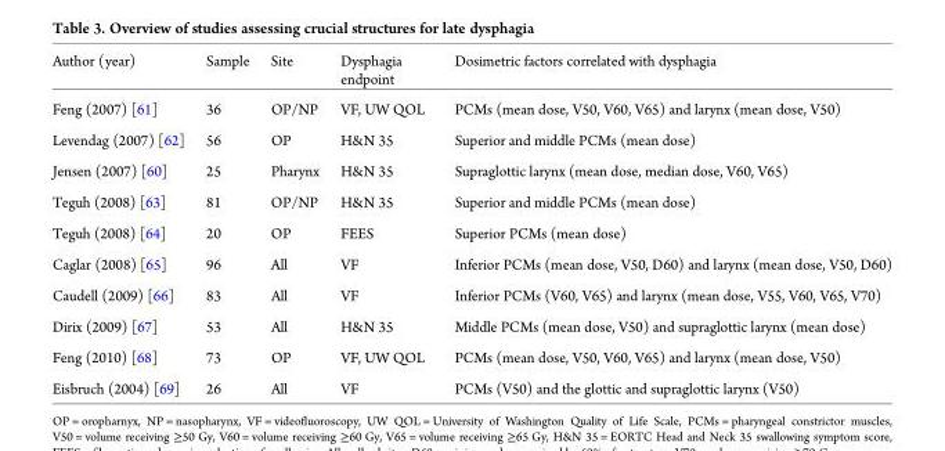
<table><thead><tr><td>Author (year)</td><td>Sample</td><td>Site</td><td>Dysphagia endpoint</td><td>Dosimetric factors correlated with dysphagia</td></tr></thead><tbody><tr><td>Feng (2007) [61]</td><td>36</td><td>OP/NP</td><td>VF, UW QOL</td><td>PCMs (mean dose, V50, V60, V65) and larynx (mean dose, V50)</td></tr><tr><td>Levendag (2007) [62]</td><td>56</td><td>OP</td><td>H&amp;N 35</td><td>Superior and middle PCMs (mean dose)</td></tr><tr><td>Jensen (2007) [60]</td><td>25</td><td>Pharynx</td><td>H&amp;N 35</td><td>Supraglottic larynx (mean dose, median dose, V60, V65)</td></tr><tr><td>Teguh (2008) [63]</td><td>81</td><td>OP/NP</td><td>H&amp;N 35</td><td>Superior and middle PCMs (mean dose)</td></tr><tr><td>Teguh (2008) [64]</td><td>20</td><td>OP</td><td>FEES</td><td>Superior PCMs (mean dose)</td></tr><tr><td>Caglar (2008) [65]</td><td>96</td><td>All</td><td>VF</td><td>Inferior PCMs (mean dose, V50, D60) and larynx (mean dose, V50, D60)</td></tr><tr><td>Caudell (2009) [66]</td><td>83</td><td>All</td><td>VF</td><td>Inferior PCMs (V60, V65) and larynx (mean dose, V55, V60, V65, V70)</td></tr><tr><td>Dirix (2009) [67]</td><td>53</td><td>All</td><td>H&amp;N 35</td><td>Middle PCMs (mean dose, V50) and supraglottic larynx (mean dose)</td></tr><tr><td>Feng (2010) [68]</td><td>73</td><td>OP</td><td>VF, UW QOL</td><td>PCMs (mean dose, V50, V60, V65) and larynx (mean dose, V50)</td></tr><tr><td>Eisbruch (2004) [69]</td><td>26</td><td>All</td><td>VF</td><td>PCMs (V50) and the glottic and supraglottic larynx (V50)</td></tr></tbody></table>